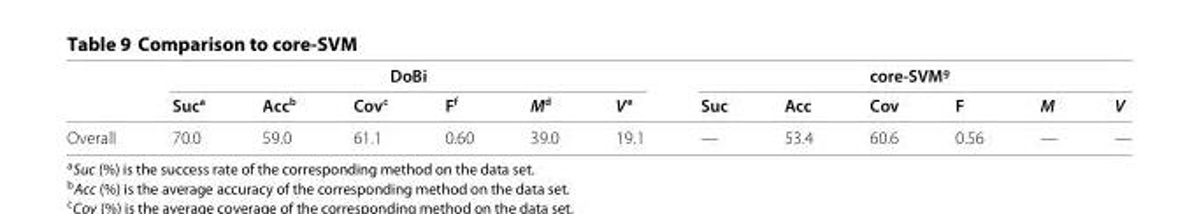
<table><thead><tr><td rowspan="2"></td><td colspan="6">DoBi</td><td colspan="6">core-SVM<sup>g</sup></td></tr><tr><td>Suc<sup>a</sup></td><td>Acc<sup>b</sup></td><td>Cov<sup>c</sup></td><td>F<sup>f</sup></td><td>M<sup>d</sup></td><td>V<sup>e</sup></td><td>Suc</td><td>Acc</td><td>Cov</td><td>F</td><td>M</td><td>V</td></tr></thead><tbody><tr><td>Overall</td><td>70.0</td><td>59.0</td><td>61.1</td><td>0.60</td><td>39.0</td><td>19.1</td><td>—</td><td>53.4</td><td>60.6</td><td>0.56</td><td>—</td><td>—</td></tr></tbody></table>